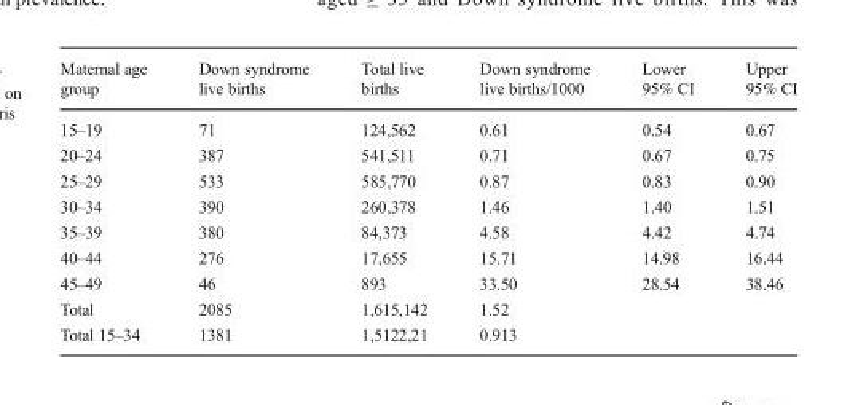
<table><thead><tr><td>Maternal age group</td><td>Down syndrome live births</td><td>Total live births</td><td>Down syndrome live births/1000</td><td>Lower 95% CI</td><td>Upper 95% CI</td></tr></thead><tbody><tr><td>15–19</td><td>71</td><td>124,562</td><td>0.61</td><td>0.54</td><td>0.67</td></tr><tr><td>20–24</td><td>387</td><td>541,511</td><td>0.71</td><td>0.67</td><td>0.75</td></tr><tr><td>25–29</td><td>533</td><td>585,770</td><td>0.87</td><td>0.83</td><td>0.90</td></tr><tr><td>30–34</td><td>390</td><td>260,378</td><td>1.46</td><td>1.40</td><td>1.51</td></tr><tr><td>35–39</td><td>380</td><td>84,373</td><td>4.58</td><td>4.42</td><td>4.74</td></tr><tr><td>40–44</td><td>276</td><td>17,655</td><td>15.71</td><td>14.98</td><td>16.44</td></tr><tr><td>45–49</td><td>46</td><td>893</td><td>33.50</td><td>28.54</td><td>38.46</td></tr><tr><td>Total</td><td>2085</td><td>1,615,142</td><td>1.52</td><td></td><td></td></tr><tr><td>Total 15–34</td><td>1381</td><td>1,5122,21</td><td>0.913</td><td></td><td></td></tr></tbody></table>